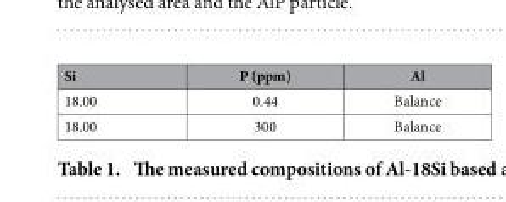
<table><thead><tr><td>Si</td><td>P (ppm)</td><td>Al</td></tr></thead><tbody><tr><td>18.00</td><td>0.44</td><td>Balance</td></tr><tr><td>18.00</td><td>300</td><td>Balance</td></tr></tbody></table>